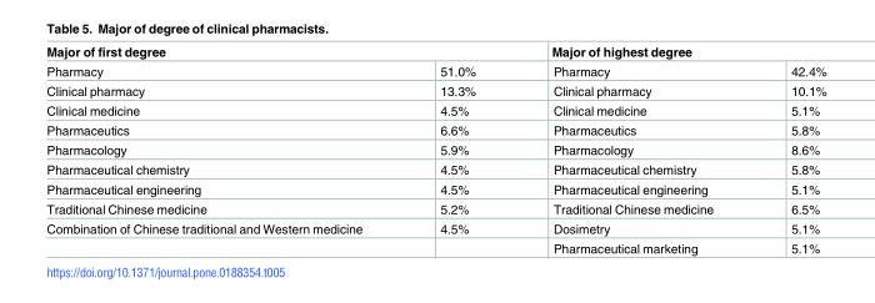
<table><thead><tr><td colspan="2">Major of first degree</td><td colspan="2">Major of highest degree</td></tr><tr><td>Pharmacy</td><td>51.0%</td><td>Pharmacy</td><td>42.4%</td></tr></thead><tbody><tr><td>Clinical pharmacy</td><td>13.3%</td><td>Clinical pharmacy</td><td>10.1%</td></tr><tr><td>Clinical medicine</td><td>4.5%</td><td>Clinical medicine</td><td>5.1%</td></tr><tr><td>Pharmaceutics</td><td>6.6%</td><td>Pharmaceutics</td><td>5.8%</td></tr><tr><td>Pharmacology</td><td>5.9%</td><td>Pharmacology</td><td>8.6%</td></tr><tr><td>Pharmaceutical chemistry</td><td>4.5%</td><td>Pharmaceutical chemistry</td><td>5.8%</td></tr><tr><td>Pharmaceutical engineering</td><td>4.5%</td><td>Pharmaceutical engineering</td><td>5.1%</td></tr><tr><td>Traditional Chinese medicine</td><td>5.2%</td><td>Traditional Chinese medicine</td><td>6.5%</td></tr><tr><td rowspan="2">Combination of Chinese traditional and Western medicine</td><td>4.5%</td><td>Dosimetry</td><td>5.1%</td></tr><tr><td></td><td>Pharmaceutical marketing</td><td>5.1%</td></tr></tbody></table>